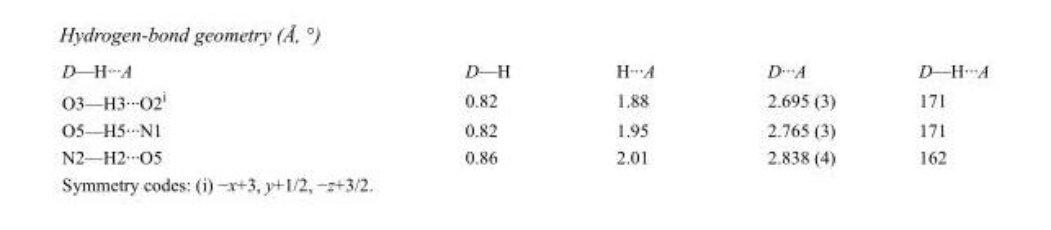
<table><tbody><tr><td>D—H···A</td><td>D—H</td><td>H···A</td><td>D···A</td><td>D—H···A</td></tr><tr><td>O3—H3···O2<sup>i</sup></td><td>0.82</td><td>1.88</td><td>2.695 (3)</td><td>171</td></tr><tr><td>O5—H5···N1</td><td>0.82</td><td>1.95</td><td>2.765 (3)</td><td>171</td></tr><tr><td>N2—H2···O5</td><td>0.86</td><td>2.01</td><td>2.838 (4)</td><td>162</td></tr></tbody></table>